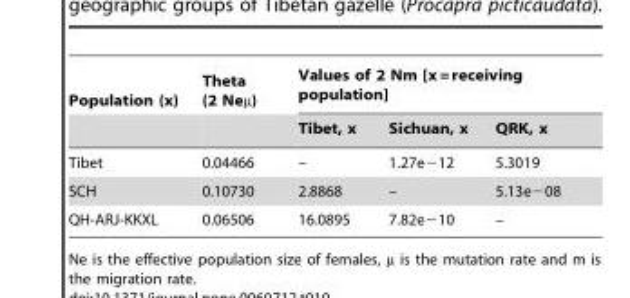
<table><thead><tr><td rowspan="2">Population (x)</td><td rowspan="2">Theta (2 Neµ)</td><td colspan="3">Values of 2 Nm [x = receiving population]</td></tr><tr><td>Tibet, x</td><td>Sichuan, x</td><td>QRK, x</td></tr></thead><tbody><tr><td>Tibet</td><td>0.04466</td><td>–</td><td>1.27e−12</td><td>5.3019</td></tr><tr><td>SCH</td><td>0.10730</td><td>2.8868</td><td>–</td><td>5.13e−08</td></tr><tr><td>QH-ARJ-KKXL</td><td>0.06506</td><td>16.0895</td><td>7.82e−10</td><td>–</td></tr></tbody></table>